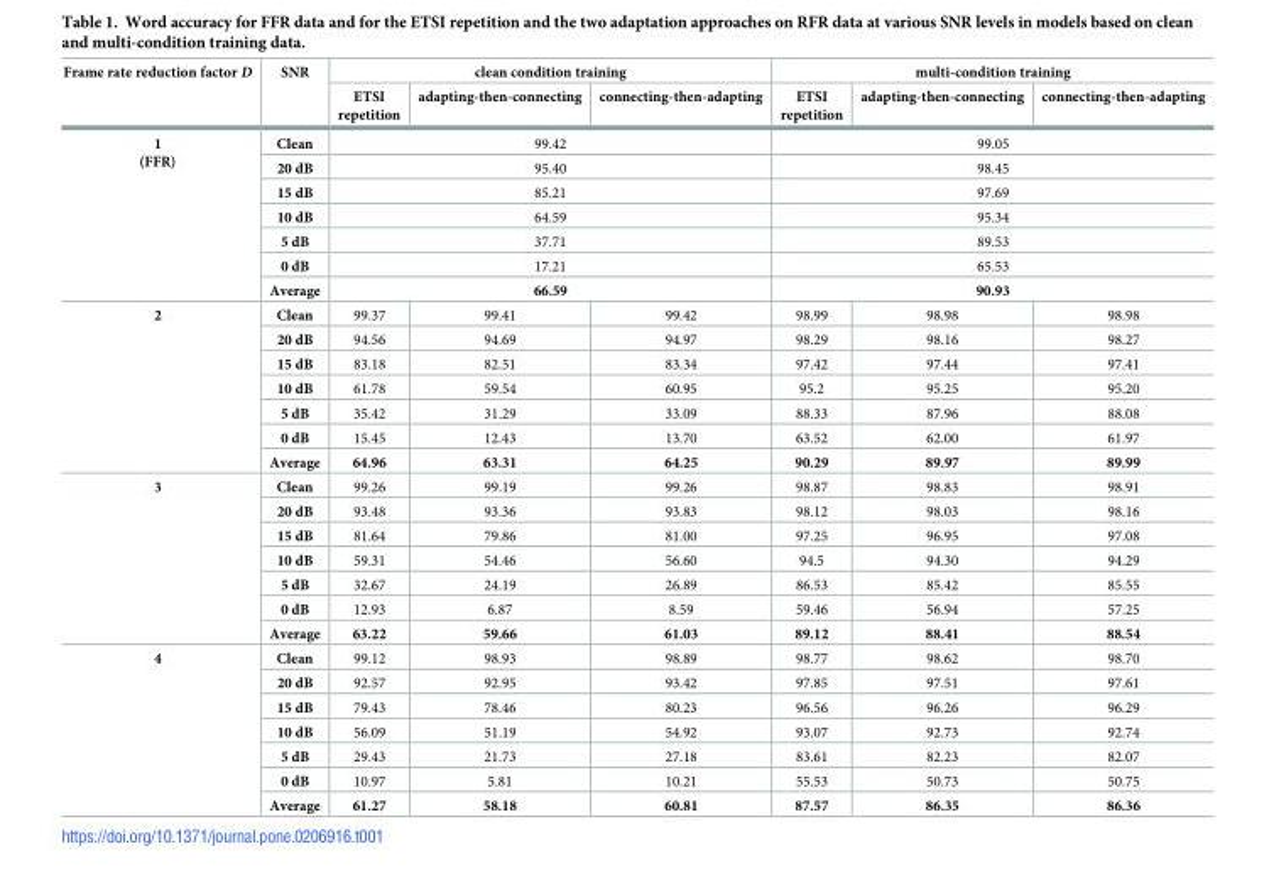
<table><thead><tr><td rowspan="2">Frame rate reduction factor D</td><td rowspan="2">SNR</td><td colspan="3">clean condition training</td><td colspan="3">multi-condition training</td></tr><tr><td>ETSI repetition</td><td>adapting-then-connecting</td><td>connecting-then-adapting</td><td>ETSI repetition</td><td>adapting-then-connecting</td><td>connecting-then-adapting</td></tr></thead><tbody><tr><td rowspan="7">1 (FFR)</td><td>Clean</td><td colspan="3">99.42</td><td colspan="3">99.05</td></tr><tr><td>20 dB</td><td colspan="3">95.40</td><td colspan="3">98.45</td></tr><tr><td>15 dB</td><td colspan="3">85.21</td><td colspan="3">97.69</td></tr><tr><td>10 dB</td><td colspan="3">64.59</td><td colspan="3">95.34</td></tr><tr><td>5 dB</td><td colspan="3">37.71</td><td colspan="3">89.53</td></tr><tr><td>0 dB</td><td colspan="3">17.21</td><td colspan="3">65.53</td></tr><tr><td>Average</td><td colspan="3">66.59</td><td colspan="3">90.93</td></tr><tr><td rowspan="7">2</td><td>Clean</td><td>99.37</td><td>99.41</td><td>99.42</td><td>98.99</td><td>98.98</td><td>98.98</td></tr><tr><td>20 dB</td><td>94.56</td><td>94.69</td><td>94.97</td><td>98.29</td><td>98.16</td><td>98.27</td></tr><tr><td>15 dB</td><td>83.18</td><td>82.51</td><td>83.34</td><td>97.42</td><td>97.44</td><td>97.41</td></tr><tr><td>10 dB</td><td>61.78</td><td>59.54</td><td>60.95</td><td>95.2</td><td>95.25</td><td>95.20</td></tr><tr><td>5 dB</td><td>35.42</td><td>31.29</td><td>33.09</td><td>88.33</td><td>87.96</td><td>88.08</td></tr><tr><td>0 dB</td><td>15.45</td><td>12.43</td><td>13.70</td><td>63.52</td><td>62.00</td><td>61.97</td></tr><tr><td>Average</td><td>64.96</td><td>63.31</td><td>64.25</td><td>90.29</td><td>89.97</td><td>89.99</td></tr><tr><td rowspan="7">3</td><td>Clean</td><td>99.26</td><td>99.19</td><td>99.26</td><td>98.87</td><td>98.83</td><td>98.91</td></tr><tr><td>20 dB</td><td>93.48</td><td>93.36</td><td>93.83</td><td>98.12</td><td>98.03</td><td>98.16</td></tr><tr><td>15 dB</td><td>81.64</td><td>79.86</td><td>81.00</td><td>97.25</td><td>96.95</td><td>97.08</td></tr><tr><td>10 dB</td><td>59.31</td><td>54.46</td><td>56.60</td><td>94.5</td><td>94.30</td><td>94.29</td></tr><tr><td>5 dB</td><td>32.67</td><td>24.19</td><td>26.89</td><td>86.53</td><td>85.42</td><td>85.55</td></tr><tr><td>0 dB</td><td>12.93</td><td>6.87</td><td>8.59</td><td>59.46</td><td>56.94</td><td>57.25</td></tr><tr><td>Average</td><td>63.22</td><td>59.66</td><td>61.03</td><td>89.12</td><td>88.41</td><td>88.54</td></tr><tr><td rowspan="7">4</td><td>Clean</td><td>99.12</td><td>98.93</td><td>98.89</td><td>98.77</td><td>98.62</td><td>98.70</td></tr><tr><td>20 dB</td><td>92.57</td><td>92.95</td><td>93.42</td><td>97.85</td><td>97.51</td><td>97.61</td></tr><tr><td>15 dB</td><td>79.43</td><td>78.46</td><td>80.23</td><td>96.56</td><td>96.26</td><td>96.29</td></tr><tr><td>10 dB</td><td>56.09</td><td>51.19</td><td>54.92</td><td>93.07</td><td>92.73</td><td>92.74</td></tr><tr><td>5 dB</td><td>29.43</td><td>21.73</td><td>27.18</td><td>83.61</td><td>82.23</td><td>82.07</td></tr><tr><td>0 dB</td><td>10.97</td><td>5.81</td><td>10.21</td><td>55.53</td><td>50.73</td><td>50.75</td></tr><tr><td>Average</td><td>61.27</td><td>58.18</td><td>60.81</td><td>87.57</td><td>86.35</td><td>86.36</td></tr></tbody></table>